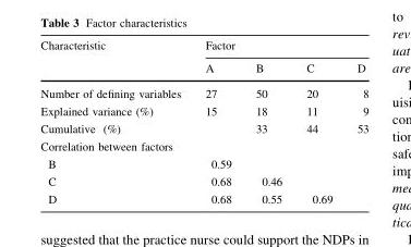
<table><thead><tr><td rowspan="2">Characteristic</td><td colspan="4">Factor</td></tr><tr><td>A</td><td>B</td><td>C</td><td>D</td></tr></thead><tbody><tr><td>Number of defining variables</td><td>27</td><td>50</td><td>20</td><td>8</td></tr><tr><td>Explained variance (%)</td><td>15</td><td>18</td><td>11</td><td>9</td></tr><tr><td>Cumulative (%)</td><td></td><td>33</td><td>44</td><td>53</td></tr><tr><td colspan="5">Correlation between factors</td></tr><tr><td>B</td><td>0.59</td><td></td><td></td><td></td></tr><tr><td>C</td><td>0.68</td><td>0.46</td><td></td><td></td></tr><tr><td>D</td><td>0.68</td><td>0.55</td><td>0.69</td><td></td></tr></tbody></table>